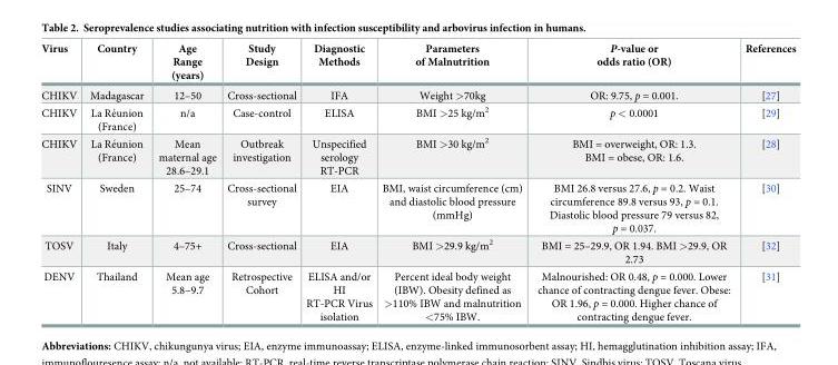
<table><thead><tr><td>Virus</td><td>Country</td><td>Age Range (years)</td><td>Study Design</td><td>Diagnostic Methods</td><td>Parameters of Malnutrition</td><td>P-value or odds ratio (OR)</td><td>References</td></tr></thead><tbody><tr><td>CHIKV</td><td>Madagascar</td><td>12–50</td><td>Cross-sectional</td><td>IFA</td><td>Weight &gt;70kg</td><td>OR: 9.75, p = 0.001.</td><td>[27]</td></tr><tr><td>CHIKV</td><td>La Re´union (France)</td><td>n/a</td><td>Case-control</td><td>ELISA</td><td>BMI &gt;25 kg/m<sup>2</sup></td><td>p &lt; 0.0001</td><td>[29]</td></tr><tr><td>CHIKV</td><td>La Re´union (France)</td><td>Mean maternal age 28.6–29.1</td><td>Outbreak investigation</td><td>Unspecified serology RT-PCR</td><td>BMI &gt;30 kg/m<sup>2</sup></td><td>BMI = overweight, OR: 1.3. BMI = obese, OR: 1.6.</td><td>[28]</td></tr><tr><td>SINV</td><td>Sweden</td><td>25–74</td><td>Cross-sectional survey</td><td>EIA</td><td>BMI, waist circumference (cm) and diastolic blood pressure (mmHg)</td><td>BMI 26.8 versus 27.6, p = 0.2. Waist circumference 89.8 versus 93, p = 0.1. Diastolic blood pressure 79 versus 82, p = 0.037.</td><td>[30]</td></tr><tr><td>TOSV</td><td>Italy</td><td>4–75+</td><td>Cross-sectional</td><td>EIA</td><td>BMI &gt;29.9 kg/m<sup>2</sup></td><td>BMI = 25–29.9, OR 1.94. BMI &gt;29.9, OR 2.73</td><td>[32]</td></tr><tr><td>DENV</td><td>Thailand</td><td>Mean age 5.8–9.7</td><td>Retrospective Cohort</td><td>ELISA and/or HI RT-PCR Virus isolation</td><td>Percent ideal body weight (IBW). Obesity defined as &gt;110% IBW and malnutrition &lt;75% IBW.</td><td>Malnourished: OR 0.48, p = 0.000. Lower chance of contracting dengue fever. Obese: OR 1.96, p = 0.000. Higher chance of contracting dengue fever.</td><td>[31]</td></tr></tbody></table>